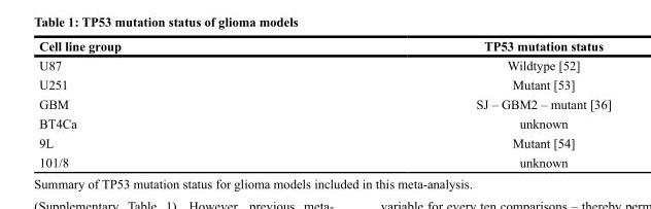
<table><thead><tr><td>Cell line group</td><td>TP53 mutation status</td></tr></thead><tbody><tr><td>U87</td><td>Wildtype [52]</td></tr><tr><td>U251</td><td>Mutant [53]</td></tr><tr><td>GBM</td><td>SJ – GBM2 – mutant [36]</td></tr><tr><td>BT4Ca</td><td>unknown</td></tr><tr><td>9L</td><td>Mutant [54]</td></tr><tr><td>101/8</td><td>unknown</td></tr></tbody></table>